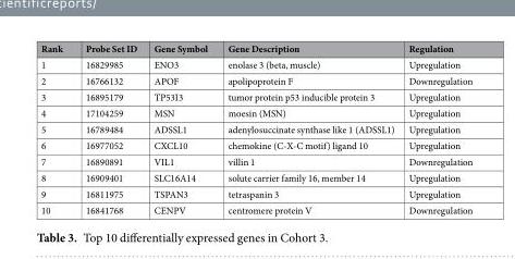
<table><thead><tr><td>Rank</td><td>Probe Set ID</td><td>Gene Symbol</td><td>Gene Description</td><td>Regulation</td></tr></thead><tbody><tr><td>1</td><td>16829985</td><td>ENO3</td><td>enolase 3 (beta, muscle)</td><td>Upregulation</td></tr><tr><td>2</td><td>16766132</td><td>APOF</td><td>apolipoprotein F</td><td>Downregulation</td></tr><tr><td>3</td><td>16895179</td><td>TP53I3</td><td>tumor protein p53 inducible protein 3</td><td>Upregulation</td></tr><tr><td>4</td><td>17104259</td><td>MSN</td><td>moesin (MSN)</td><td>Upregulation</td></tr><tr><td>5</td><td>16789484</td><td>ADSSL1</td><td>adenylosuccinate synthase like 1 (ADSSL1)</td><td>Upregulation</td></tr><tr><td>6</td><td>16977052</td><td>CXCL10</td><td>chemokine (C-X-C motif) ligand 10</td><td>Upregulation</td></tr><tr><td>7</td><td>16890891</td><td>VIL1</td><td>villin 1</td><td>Downregulation</td></tr><tr><td>8</td><td>16909401</td><td>SLC16A14</td><td>solute carrier family 16, member 14</td><td>Upregulation</td></tr><tr><td>9</td><td>16811975</td><td>TSPAN3</td><td>tetraspanin 3</td><td>Upregulation</td></tr><tr><td>10</td><td>16841768</td><td>CENPV</td><td>centromere protein V</td><td>Downregulation</td></tr></tbody></table>